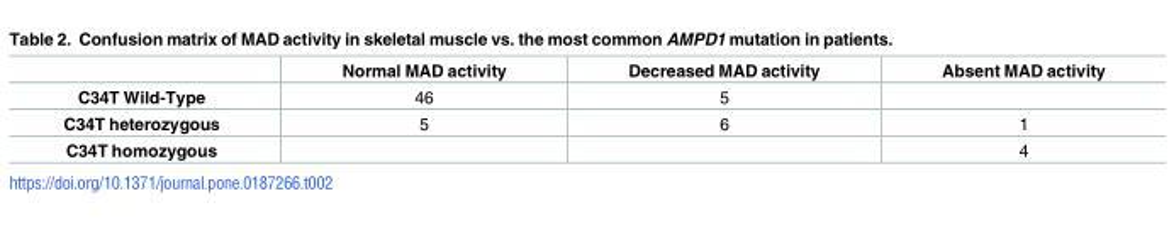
<table><thead><tr><td></td><td>Normal MAD activity</td><td>Decreased MAD activity</td><td>Absent MAD activity</td></tr></thead><tbody><tr><td>C34T Wild-Type</td><td>46</td><td>5</td><td></td></tr><tr><td>C34T heterozygous</td><td>5</td><td>6</td><td>1</td></tr><tr><td>C34T homozygous</td><td></td><td></td><td>4</td></tr></tbody></table>